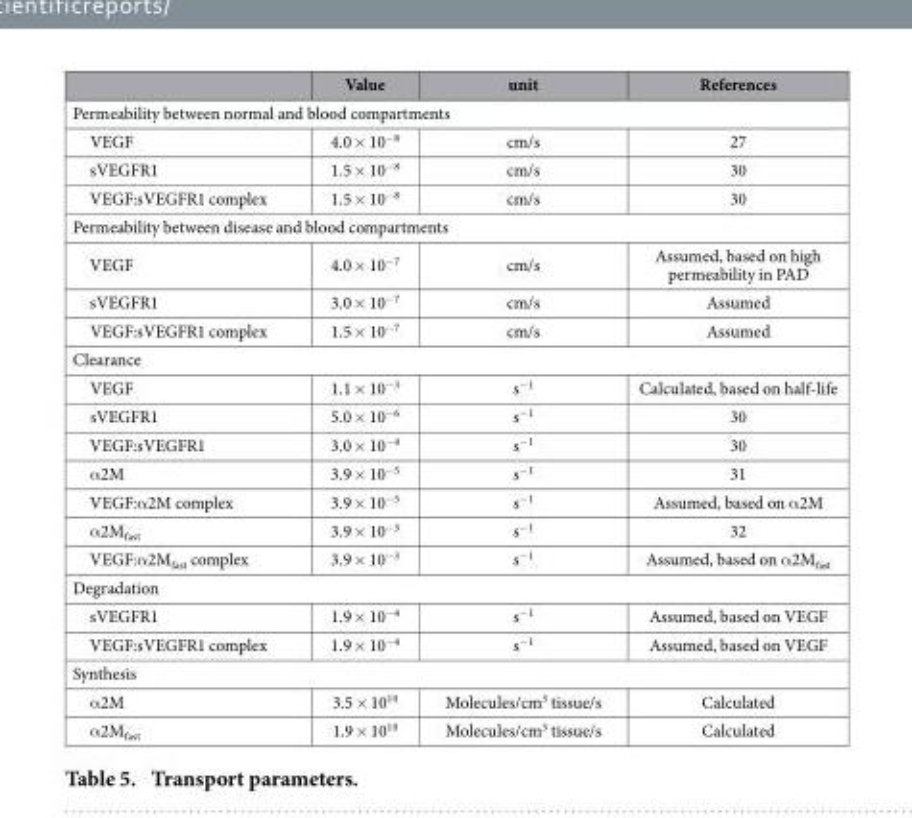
<table><thead><tr><td></td><td>Value</td><td>unit</td><td>References</td></tr></thead><tbody><tr><td colspan="4">Permeability between normal and blood compartments</td></tr><tr><td>VEGF</td><td>4.0 × 10<sup>−8</sup></td><td>cm/s</td><td>27</td></tr><tr><td>sVEGFR1</td><td>1.5 × 10<sup>−8</sup></td><td>cm/s</td><td>30</td></tr><tr><td>VEGF:sVEGFR1 complex</td><td>1.5 × 10<sup>−8</sup></td><td>cm/s</td><td>30</td></tr><tr><td colspan="4">Permeability between disease and blood compartments</td></tr><tr><td>VEGF</td><td>4.0 × 10<sup>−7</sup></td><td>cm/s</td><td>Assumed, based on high permeability in PAD</td></tr><tr><td>sVEGFR1</td><td>3.0 × 10<sup>−7</sup></td><td>cm/s</td><td>Assumed</td></tr><tr><td>VEGF:sVEGFR1 complex</td><td>1.5 × 10<sup>−7</sup></td><td>cm/s</td><td>Assumed</td></tr><tr><td colspan="4">Clearance</td></tr><tr><td>VEGF</td><td>1.1 × 10<sup>−3</sup></td><td>s<sup>−1</sup></td><td>Calculated, based on half-life</td></tr><tr><td>sVEGFR1</td><td>5.0 × 10<sup>−6</sup></td><td>s<sup>−1</sup></td><td>30</td></tr><tr><td>VEGF:sVEGFR1</td><td>3.0 × 10<sup>−4</sup></td><td>s<sup>−1</sup></td><td>30</td></tr><tr><td>α 2M</td><td>3.9 × 10<sup>−5</sup></td><td>s<sup>−1</sup></td><td>31</td></tr><tr><td>VEGF:α 2M complex</td><td>3.9 × 10<sup>−5</sup></td><td>s<sup>−1</sup></td><td>Assumed, based on α 2M</td></tr><tr><td>α 2M<sub>fast</sub></td><td>3.9 × 10<sup>−3</sup></td><td>s<sup>−1</sup></td><td>32</td></tr><tr><td>VEGF:α 2M<sub>fast</sub> complex</td><td>3.9 × 10<sup>−3</sup></td><td>s<sup>−1</sup></td><td>Assumed, based on α 2M<sub>fast</sub></td></tr><tr><td colspan="4">Degradation</td></tr><tr><td>sVEGFR1</td><td>1.9 × 10<sup>−4</sup></td><td>s<sup>−1</sup></td><td>Assumed, based on VEGF</td></tr><tr><td>VEGF:sVEGFR1 complex</td><td>1.9 × 10<sup>−4</sup></td><td>s<sup>−1</sup></td><td>Assumed, based on VEGF</td></tr><tr><td colspan="4">Synthesis</td></tr><tr><td>α 2M</td><td>3.5 × 10<sup>10</sup></td><td>Molecules/cm<sup>3</sup> tissue/s</td><td>Calculated</td></tr><tr><td>α 2M<sub>fast</sub></td><td>1.9 × 10<sup>10</sup></td><td>Molecules/cm<sup>3</sup> tissue/s</td><td>Calculated</td></tr></tbody></table>